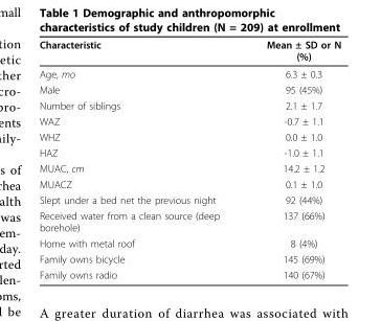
<table><thead><tr><td>Characteristic</td><td>Mean ± SD or N (%)</td></tr></thead><tbody><tr><td>Age, mo</td><td>6.3 ± 0.3</td></tr><tr><td>Male</td><td>95 (45%)</td></tr><tr><td>Number of siblings</td><td>2.1 ± 1.7</td></tr><tr><td>WAZ</td><td>-0.7 ± 1.1</td></tr><tr><td>WHZ</td><td>0.0 ± 1.0</td></tr><tr><td>HAZ</td><td>-1.0 ± 1.1</td></tr><tr><td>MUAC, cm</td><td>14.2 ± 1.2</td></tr><tr><td>MUACZ</td><td>0.1 ± 1.0</td></tr><tr><td>Slept under a bed net the previous night</td><td>92 (44%)</td></tr><tr><td>Received water from a clean source (deep borehole)</td><td>137 (66%)</td></tr><tr><td>Home with metal roof</td><td>8 (4%)</td></tr><tr><td>Family owns bicycle</td><td>145 (69%)</td></tr><tr><td>Family owns radio</td><td>140 (67%)</td></tr></tbody></table>